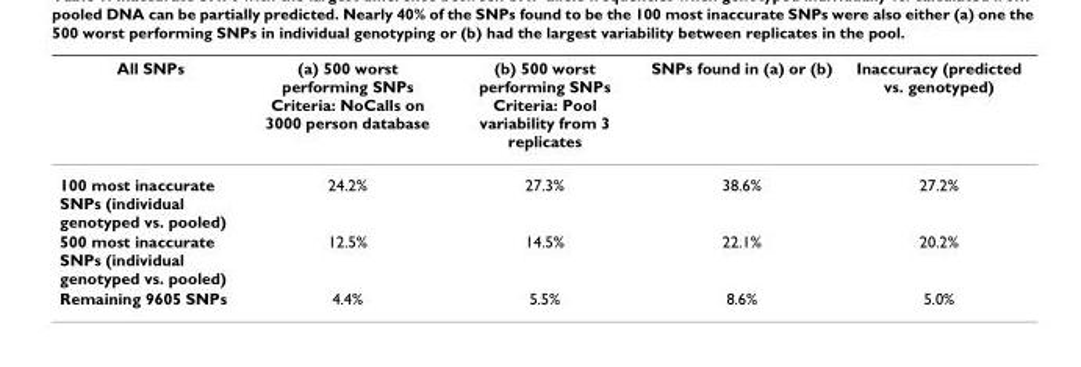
<table><thead><tr><td>All SNPs</td><td>(a) 500 worst performing SNPs Criteria: NoCalls on 3000 person database</td><td>(b) 500 worst performing SNPs Criteria: Pool variability from 3 replicates</td><td>SNPs found in (a) or (b)</td><td>Inaccuracy (predicted vs. genotyped)</td></tr></thead><tbody><tr><td>100 most inaccurate SNPs (individual genotyped vs. pooled)</td><td>24.2%</td><td>27.3%</td><td>38.6%</td><td>27.2%</td></tr><tr><td>500 most inaccurate SNPs (individual genotyped vs. pooled)</td><td>12.5%</td><td>14.5%</td><td>22.1%</td><td>20.2%</td></tr><tr><td>Remaining 9605 SNPs</td><td>4.4%</td><td>5.5%</td><td>8.6%</td><td>5.0%</td></tr></tbody></table>